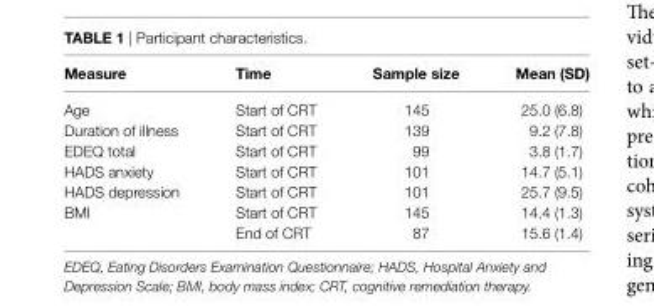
<table><thead><tr><td>Measure</td><td>Time</td><td>sample size</td><td>Mean (sD)</td></tr></thead><tbody><tr><td>Age</td><td>Start of CRT</td><td>145</td><td>25.0 (6.8)</td></tr><tr><td>Duration of illness</td><td>Start of CRT</td><td>139</td><td>9.2 (7.8)</td></tr><tr><td>EDEQ total</td><td>Start of CRT</td><td>99</td><td>3.8 (1.7)</td></tr><tr><td>HADS anxiety</td><td>Start of CRT</td><td>101</td><td>14.7 (5.1)</td></tr><tr><td>HADS depression</td><td>Start of CRT</td><td>101</td><td>25.7 (9.5)</td></tr><tr><td rowspan="2">BMI</td><td>Start of CRT</td><td>145</td><td>14.4 (1.3)</td></tr><tr><td>End of CRT</td><td>87</td><td>15.6 (1.4)</td></tr></tbody></table>